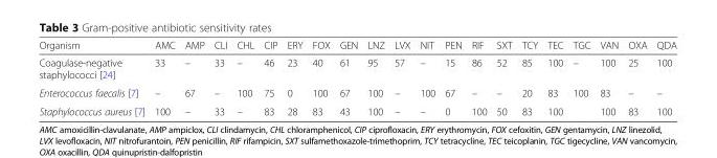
<table><thead><tr><td>Organism</td><td>AMC</td><td>AMP</td><td>CLI</td><td>CHL</td><td>CIP</td><td>ERY</td><td>FOX</td><td>GEN</td><td>LNZ</td><td>LVX</td><td>NIT</td><td>PEN</td><td>RIF</td><td>SXT</td><td>TCY</td><td>TEC</td><td>TGC</td><td>VAN</td><td>OXA</td><td>QDA</td></tr></thead><tbody><tr><td>Coagulase-negative staphylococci [24]</td><td>33</td><td>–</td><td>33</td><td>–</td><td>46</td><td>23</td><td>40</td><td>61</td><td>95</td><td>57</td><td>–</td><td>15</td><td>86</td><td>52</td><td>85</td><td>100</td><td>–</td><td>100</td><td>25</td><td>100</td></tr><tr><td>Enterococcus faecalis [7]</td><td>–</td><td>67</td><td>–</td><td>100</td><td>75</td><td>0</td><td>100</td><td>67</td><td>100</td><td>–</td><td>100</td><td>67</td><td>–</td><td>–</td><td>20</td><td>83</td><td>100</td><td>83</td><td>–</td><td>–</td></tr><tr><td>Staphylococcus aureus [7]</td><td>100</td><td>–</td><td>33</td><td>–</td><td>83</td><td>28</td><td>83</td><td>43</td><td>100</td><td>–</td><td>–</td><td>0</td><td>100</td><td>50</td><td>83</td><td>100</td><td></td><td>100</td><td>83</td><td>100</td></tr></tbody></table>